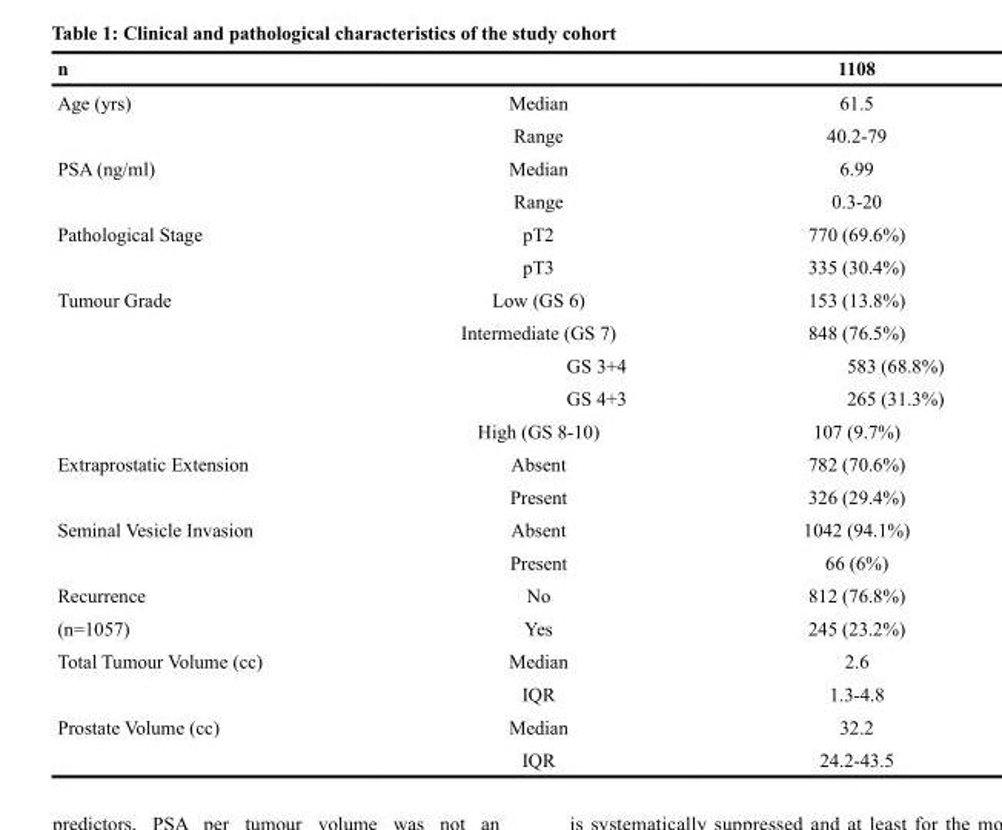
<table><thead><tr><td>n</td><td></td><td>1108</td></tr></thead><tbody><tr><td rowspan="2">Age (yrs)</td><td>Median</td><td>61.5</td></tr><tr><td>Range</td><td>40.2-79</td></tr><tr><td rowspan="2">PSA (ng/ml)</td><td>Median</td><td>6.99</td></tr><tr><td>Range</td><td>0.3-20</td></tr><tr><td rowspan="2">Pathological Stage</td><td>pT2</td><td>770 (69.6%)</td></tr><tr><td>pT3</td><td>335 (30.4%)</td></tr><tr><td rowspan="5">Tumour Grade</td><td>Low (GS 6)</td><td>153 (13.8%)</td></tr><tr><td>Intermediate (GS 7)</td><td>848 (76.5%)</td></tr><tr><td>GS 3+4</td><td>583 (68.8%)</td></tr><tr><td>GS 4+3</td><td>265 (31.3%)</td></tr><tr><td>High (GS 8-10)</td><td>107 (9.7%)</td></tr><tr><td rowspan="2">Extraprostatic Extension</td><td>Absent</td><td>782 (70.6%)</td></tr><tr><td>Present</td><td>326 (29.4%)</td></tr><tr><td rowspan="2">Seminal Vesicle Invasion</td><td>Absent</td><td>1042 (94.1%)</td></tr><tr><td>Present</td><td>66 (6%)</td></tr><tr><td>Recurrence</td><td>No</td><td>812 (76.8%)</td></tr><tr><td>(n=1057)</td><td>Yes</td><td>245 (23.2%)</td></tr><tr><td rowspan="2">Total Tumour Volume (cc)</td><td>Median</td><td>2.6</td></tr><tr><td>IQR</td><td>1.3-4.8</td></tr><tr><td rowspan="2">Prostate Volume (cc)</td><td>Median</td><td>32.2</td></tr><tr><td>IQR</td><td>24.2-43.5</td></tr></tbody></table>